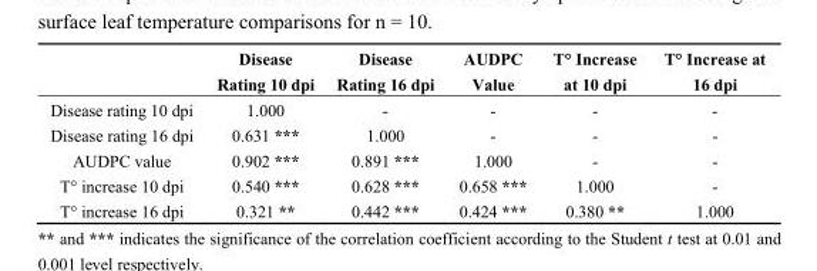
<table><thead><tr><td></td><td>Disease Rating 10 dpi</td><td>Disease Rating 16 dpi</td><td>AUDPC Value</td><td>T° Increase at 10 dpi</td><td>T° Increase at 16 dpi</td></tr></thead><tbody><tr><td>Disease rating 10 dpi</td><td>1.000</td><td>-</td><td>-</td><td>-</td><td>-</td></tr><tr><td>Disease rating 16 dpi</td><td>0.631 ***</td><td>1.000</td><td>-</td><td>-</td><td>-</td></tr><tr><td>AUDPC value</td><td>0.902 ***</td><td>0.891 ***</td><td>1.000</td><td>-</td><td>-</td></tr><tr><td>T° increase 10 dpi</td><td>0.540 ***</td><td>0.628 ***</td><td>0.658 ***</td><td>1.000</td><td>-</td></tr><tr><td>T° increase 16 dpi</td><td>0.321 **</td><td>0.442 ***</td><td>0.424 ***</td><td>0.380 **</td><td>1.000</td></tr></tbody></table>